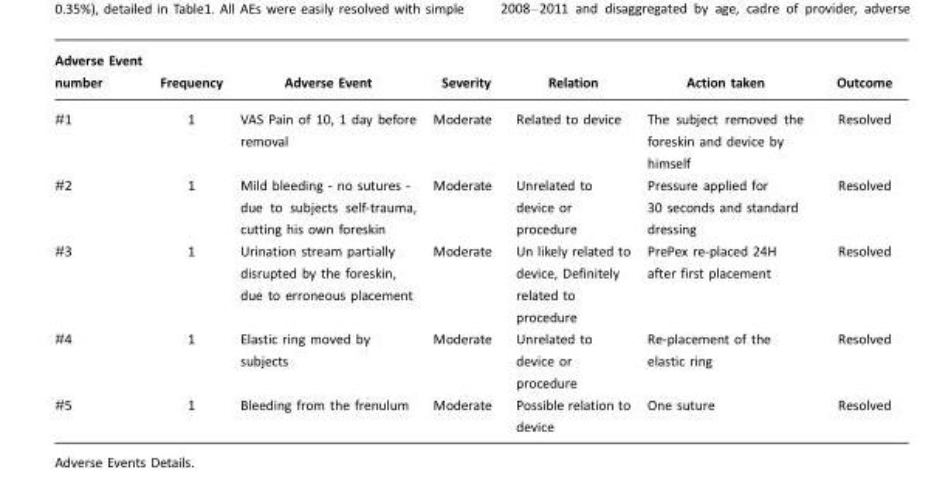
<table><thead><tr><td>Adverse Event number</td><td>Frequency</td><td>Adverse Event</td><td>Severity</td><td>Relation</td><td>Action taken</td><td>Outcome</td></tr></thead><tbody><tr><td>#1</td><td>1</td><td>VAS Pain of 10, 1 day before removal</td><td>Moderate</td><td>Related to device</td><td>The subject removed the foreskin and device by himself</td><td>Resolved</td></tr><tr><td>#2</td><td>1</td><td>Mild bleeding - no sutures - due to subjects self-trauma, cutting his own foreskin</td><td>Moderate</td><td>Unrelated to device or procedure</td><td>Pressure applied for 30 seconds and standard dressing</td><td>Resolved</td></tr><tr><td>#3</td><td>1</td><td>Urination stream partially disrupted by the foreskin, due to erroneous placement</td><td>Moderate</td><td>Un likely related to device, Definitely related to procedure</td><td>PrePex re-placed 24H after first placement</td><td>Resolved</td></tr><tr><td>#4</td><td>1</td><td>Elastic ring moved by subjects</td><td>Moderate</td><td>Unrelated to device or procedure</td><td>Re-placement of the elastic ring</td><td>Resolved</td></tr><tr><td>#5</td><td>1</td><td>Bleeding from the frenulum</td><td>Moderate</td><td>Possible relation to device</td><td>One suture</td><td>Resolved</td></tr></tbody></table>